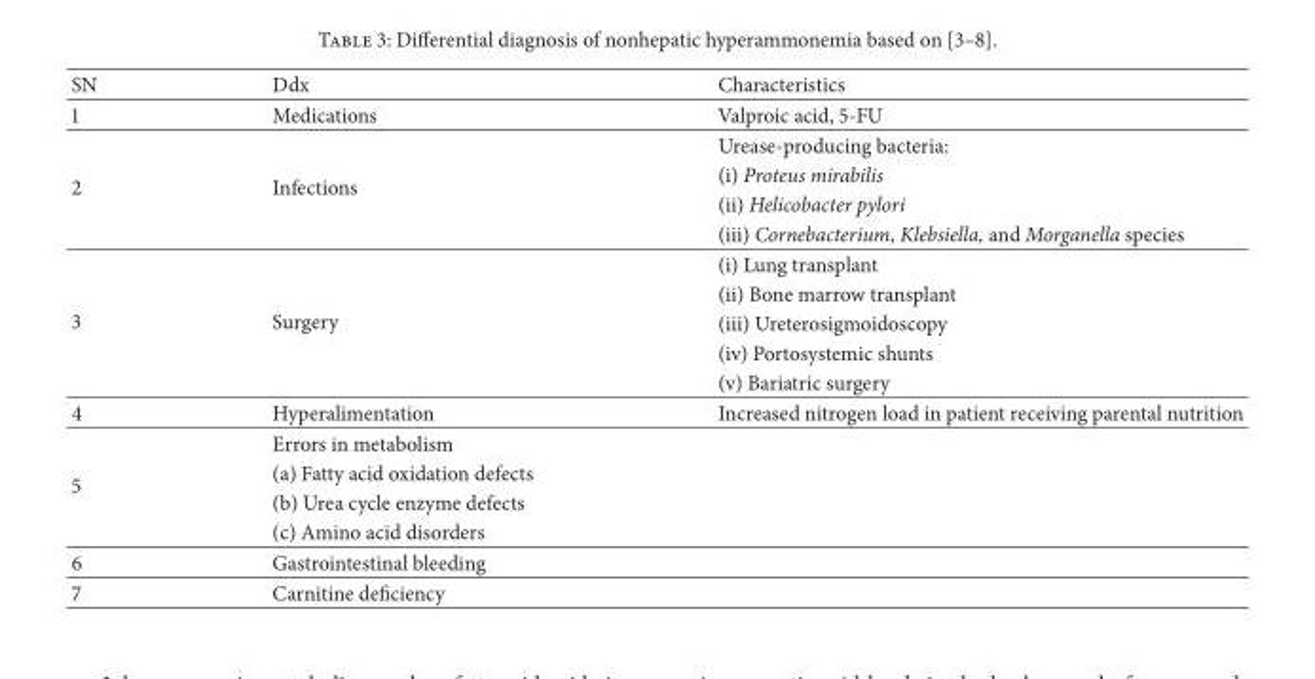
<table><thead><tr><td>SN</td><td>Ddx</td><td>Characteristics</td></tr></thead><tbody><tr><td>1</td><td>Medications</td><td>Valproic acid, 5-FU</td></tr><tr><td rowspan="4">2</td><td rowspan="4">Infections</td><td>Urease-producing bacteria:</td></tr><tr><td>(i) Proteus mirabilis</td></tr><tr><td>(ii) Helicobacter pylori</td></tr><tr><td>(iii) Cornebacterium, Klebsiella, and Morganella species</td></tr><tr><td rowspan="5">3</td><td rowspan="5">Surgery</td><td>(i) Lung transplant</td></tr><tr><td>(ii) Bone marrow transplant</td></tr><tr><td>(iii) Ureterosigmoidoscopy</td></tr><tr><td>(iv) Portosystemic shunts</td></tr><tr><td>(v) Bariatric surgery</td></tr><tr><td>4</td><td>Hyperalimentation</td><td>Increased nitrogen load in patient receiving parental nutrition</td></tr><tr><td rowspan="4">5</td><td>Errors in metabolism</td><td></td></tr><tr><td>(a) Fatty acid oxidation defects</td><td></td></tr><tr><td>(b) Urea cycle enzyme defects</td><td></td></tr><tr><td>(c) Amino acid disorders</td><td></td></tr><tr><td>6</td><td>Gastrointestinal bleeding</td><td></td></tr><tr><td>7</td><td>Carnitine deficiency</td><td></td></tr></tbody></table>